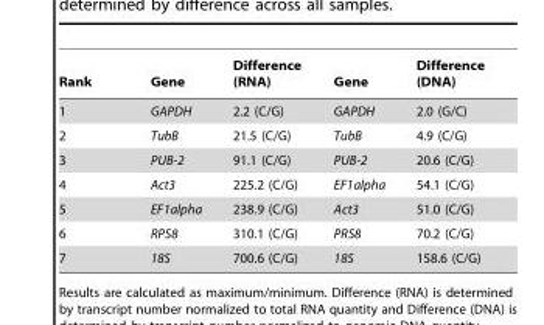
<table><thead><tr><td>Rank</td><td>Gene</td><td>Difference (RNA)</td><td>Gene</td><td>Difference (DNA)</td></tr></thead><tbody><tr><td>1</td><td>GAPDH</td><td>2.2 (C/G)</td><td>GAPDH</td><td>2.0 (G/C)</td></tr><tr><td>2</td><td>TubB</td><td>21.5 (C/G)</td><td>TubB</td><td>4.9 (C/G)</td></tr><tr><td>3</td><td>PUB-2</td><td>91.1 (C/G)</td><td>PUB-2</td><td>20.6 (C/G)</td></tr><tr><td>4</td><td>Act3</td><td>225.2 (C/G)</td><td>EF1alpha</td><td>54.1 (C/G)</td></tr><tr><td>5</td><td>EF1alpha</td><td>238.9 (C/G)</td><td>Act3</td><td>51.0 (C/G)</td></tr><tr><td>6</td><td>RPS8</td><td>310.1 (C/G)</td><td>PRS8</td><td>70.2 (C/G)</td></tr><tr><td>7</td><td>18S</td><td>700.6 (C/G)</td><td>18S</td><td>158.6 (C/G)</td></tr></tbody></table>